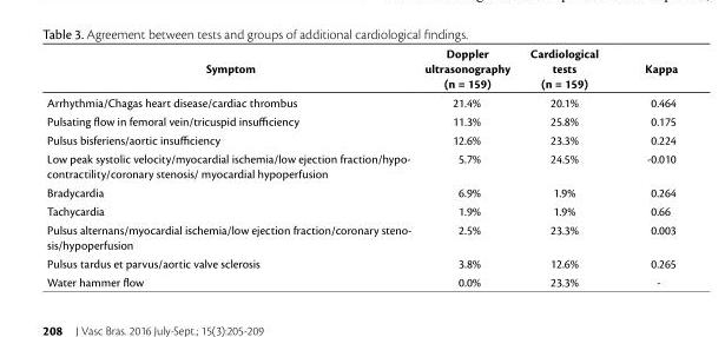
<table><thead><tr><td>Symptom</td><td>Doppler ultrasonography (n = 159)</td><td>Cardiological tests (n = 159)</td><td>Kappa</td></tr></thead><tbody><tr><td>Arrhythmia/Chagas heart disease/cardiac thrombus</td><td>21.4%</td><td>20.1%</td><td>0.464</td></tr><tr><td>Pulsating flow in femoral vein/tricuspid insufficiency</td><td>11.3%</td><td>25.8%</td><td>0.175</td></tr><tr><td>Pulsus bisferiens/aortic insufficiency</td><td>12.6%</td><td>23.3%</td><td>0.224</td></tr><tr><td>Low peak systolic velocity/myocardial ischemia/low ejection fraction/hypo- contractility/coronary stenosis/ myocardial hypoperfusion</td><td>5.7%</td><td>24.5%</td><td>-0.010</td></tr><tr><td>Bradycardia</td><td>6.9%</td><td>1.9%</td><td>0.264</td></tr><tr><td>Tachycardia</td><td>1.9%</td><td>1.9%</td><td>0.66</td></tr><tr><td>Pulsus alternans/myocardial ischemia/low ejection fraction/coronary steno- sis/hypoperfusion</td><td>2.5%</td><td>23.3%</td><td>0.003</td></tr><tr><td>Pulsus tardus et parvus/aortic valve sclerosis</td><td>3.8%</td><td>12.6%</td><td>0.265</td></tr><tr><td>Water hammer flow</td><td>0.0%</td><td>23.3%</td><td>-</td></tr></tbody></table>